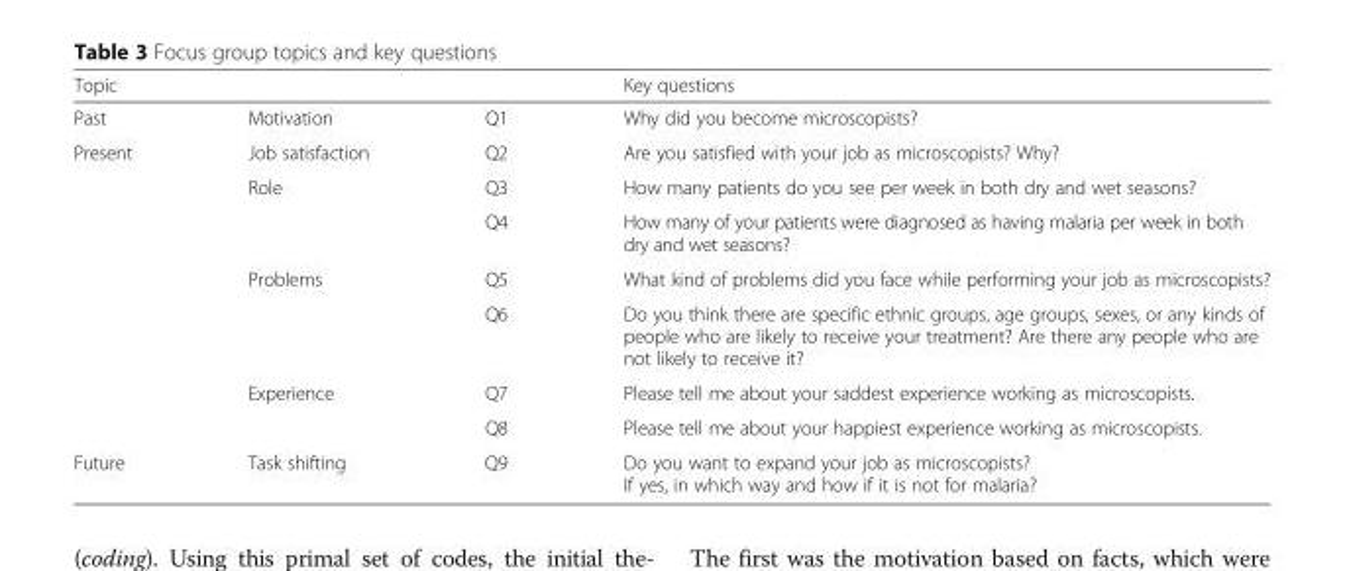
<table><thead><tr><td colspan="2">Topic</td><td rowspan="2">Q1</td><td rowspan="2">Key questions Why did you become microscopists?</td></tr><tr><td>Past</td><td>Motivation</td></tr></thead><tbody><tr><td rowspan="7">Present</td><td>Job satisfaction</td><td>Q2</td><td>Are you satisfied with your job as microscopists? Why?</td></tr><tr><td rowspan="2">Role</td><td>Q3</td><td>How many patients do you see per week in both dry and wet seasons?</td></tr><tr><td>Q4</td><td>How many of your patients were diagnosed as having malaria per week in both dry and wet seasons?</td></tr><tr><td rowspan="2">Problems</td><td>Q5</td><td>What kind of problems did you face while performing your job as microscopists?</td></tr><tr><td>Q6</td><td>Do you think there are specific ethnic groups, age groups, sexes, or any kinds of people who are likely to receive your treatment? Are there any people who are not likely to receive it?</td></tr><tr><td rowspan="2">Experience</td><td>Q7</td><td>Please tell me about your saddest experience working as microscopists.</td></tr><tr><td>Q8</td><td>Please tell me about your happiest experience working as microscopists.</td></tr><tr><td>Future</td><td>Task shifting</td><td>Q9</td><td>Do you want to expand your job as microscopists? If yes, in which way and how if it is not for malaria?</td></tr></tbody></table>